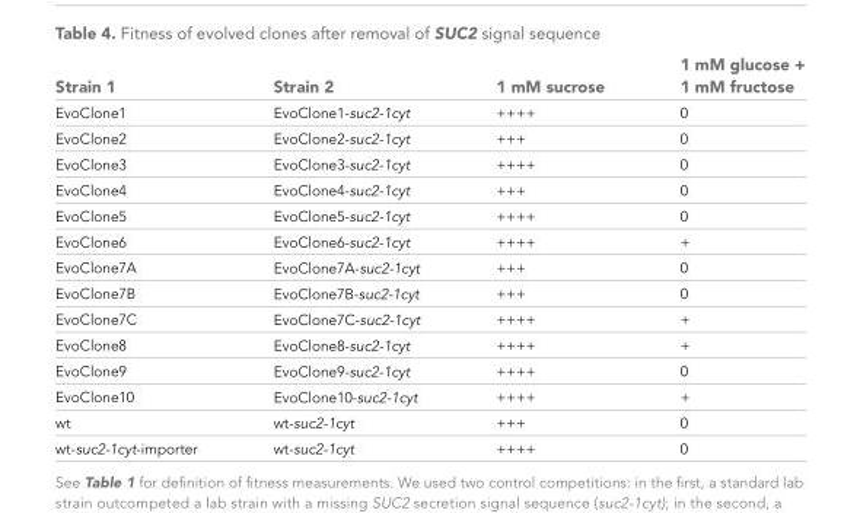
<table><thead><tr><td>Strain 1</td><td>Strain 2</td><td>1 mM sucrose</td><td>1 mM glucose + 1 mM fructose</td></tr></thead><tbody><tr><td>EvoClone1</td><td>EvoClone1-suc2-1cyt</td><td>++++</td><td>0</td></tr><tr><td>EvoClone2</td><td>EvoClone2-suc2-1cyt</td><td>+++</td><td>0</td></tr><tr><td>EvoClone3</td><td>EvoClone3-suc2-1cyt</td><td>++++</td><td>0</td></tr><tr><td>EvoClone4</td><td>EvoClone4-suc2-1cyt</td><td>+++</td><td>0</td></tr><tr><td>EvoClone5</td><td>EvoClone5-suc2-1cyt</td><td>++++</td><td>0</td></tr><tr><td>EvoClone6</td><td>EvoClone6-suc2-1cyt</td><td>++++</td><td>+</td></tr><tr><td>EvoClone7A</td><td>EvoClone7A-suc2-1cyt</td><td>+++</td><td>0</td></tr><tr><td>EvoClone7B</td><td>EvoClone7B-suc2-1cyt</td><td>+++</td><td>0</td></tr><tr><td>EvoClone7C</td><td>EvoClone7C-suc2-1cyt</td><td>++++</td><td>+</td></tr><tr><td>EvoClone8</td><td>EvoClone8-suc2-1cyt</td><td>++++</td><td>+</td></tr><tr><td>EvoClone9</td><td>EvoClone9-suc2-1cyt</td><td>++++</td><td>0</td></tr><tr><td>EvoClone10</td><td>EvoClone10-suc2-1cyt</td><td>++++</td><td>+</td></tr><tr><td>wt</td><td>wt-suc2-1cyt</td><td>+++</td><td>0</td></tr><tr><td>wt-suc2-1cyt-importer</td><td>wt-suc2-1cyt</td><td>++++</td><td>0</td></tr></tbody></table>